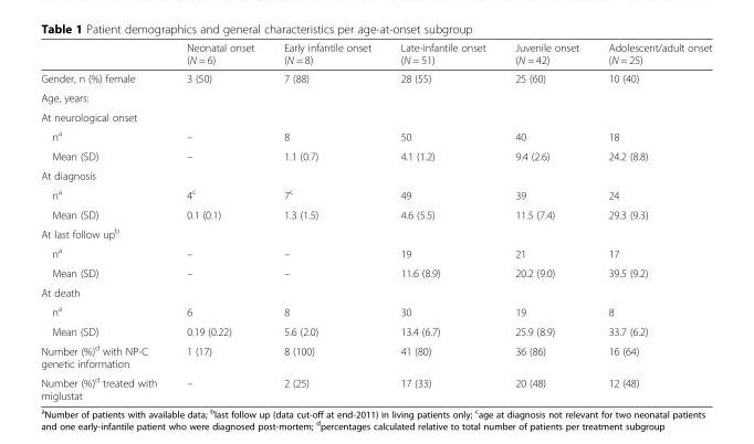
<table><thead><tr><td></td><td>Neonatal onset (N = 6)</td><td>Early infantile onset (N = 8)</td><td>Late-infantile onset (N = 51)</td><td>Juvenile onset (N = 42)</td><td>Adolescent/adult onset (N = 25)</td></tr></thead><tbody><tr><td>Gender, n (%) female</td><td>3 (50)</td><td>7 (88)</td><td>28 (55)</td><td>25 (60)</td><td>10 (40)</td></tr><tr><td colspan="6">Age, years:</td></tr><tr><td colspan="6">At neurological onset</td></tr><tr><td>n<sup>a</sup></td><td>–</td><td>8</td><td>50</td><td>40</td><td>18</td></tr><tr><td>Mean (SD)</td><td>–</td><td>1.1 (0.7)</td><td>4.1 (1.2)</td><td>9.4 (2.6)</td><td>24.2 (8.8)</td></tr><tr><td colspan="6">At diagnosis</td></tr><tr><td>n<sup>a</sup></td><td>4<sup>c</sup></td><td>7<sup>c</sup></td><td>49</td><td>39</td><td>24</td></tr><tr><td>Mean (SD)</td><td>0.1 (0.1)</td><td>1.3 (1.5)</td><td>4.6 (5.5)</td><td>11.5 (7.4)</td><td>29.3 (9.3)</td></tr><tr><td colspan="6">At last follow up<sup>b</sup></td></tr><tr><td>n<sup>a</sup></td><td>–</td><td>–</td><td>19</td><td>21</td><td>17</td></tr><tr><td>Mean (SD)</td><td>–</td><td>–</td><td>11.6 (8.9)</td><td>20.2 (9.0)</td><td>39.5 (9.2)</td></tr><tr><td colspan="6">At death</td></tr><tr><td>n<sup>a</sup></td><td>6</td><td>8</td><td>30</td><td>19</td><td>8</td></tr><tr><td>Mean (SD)</td><td>0.19 (0.22)</td><td>5.6 (2.0)</td><td>13.4 (6.7)</td><td>25.9 (8.9)</td><td>33.7 (6.2)</td></tr><tr><td>Number (%)<sup>d</sup> with NP-C genetic information</td><td>1 (17)</td><td>8 (100)</td><td>41 (80)</td><td>36 (86)</td><td>16 (64)</td></tr><tr><td>Number (%)<sup>d</sup> treated with miglustat</td><td>–</td><td>2 (25)</td><td>17 (33)</td><td>20 (48)</td><td>12 (48)</td></tr></tbody></table>